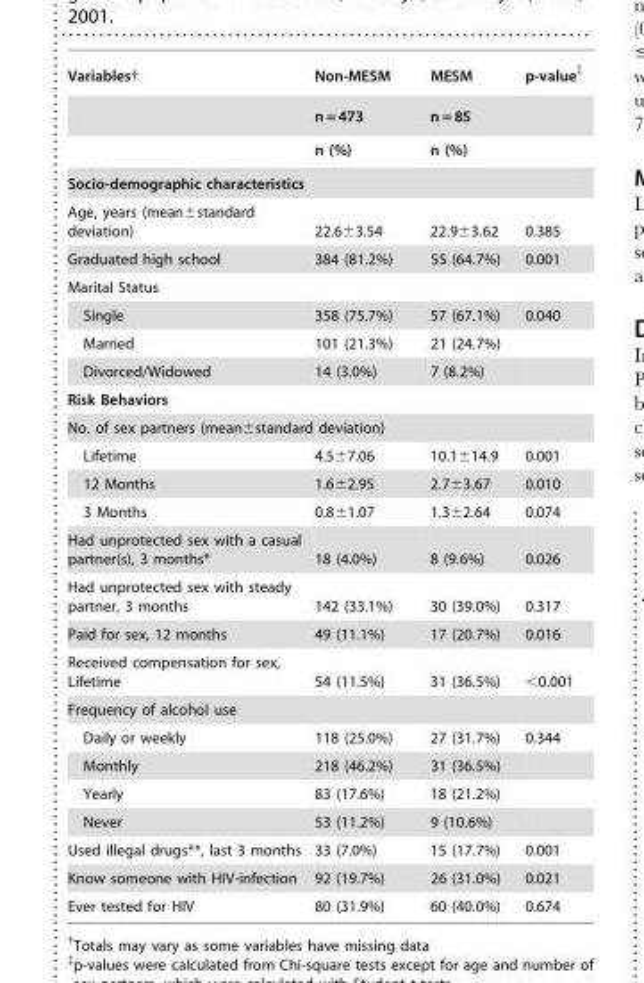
<table><thead><tr><td rowspan="3">Variables†</td><td rowspan="3">Non-MESM n = 473 n (%)</td><td rowspan="3">MESM n = 85 n (%)</td><td rowspan="3">p-value</td></tr><tr></tr><tr></tr></thead><tbody><tr><td colspan="4">Socio-demographic characteristics</td></tr><tr><td>Age, years (mean±standard deviation)</td><td>22.6±3.54</td><td>22.9±3.62</td><td>0.385</td></tr><tr><td>Graduated high school</td><td>384 (81.2%)</td><td>55 (64.7%)</td><td>0.001</td></tr><tr><td colspan="4">Marital Status</td></tr><tr><td>Single</td><td>358 (75.7%)</td><td>57 (67.1%)</td><td>0.040</td></tr><tr><td>Married</td><td>101 (21.3%)</td><td>21 (24.7%)</td><td></td></tr><tr><td>Divorced/Widowed</td><td>14 (3.0%)</td><td>7 (8.2%)</td><td></td></tr><tr><td colspan="4">Risk Behaviors</td></tr><tr><td colspan="4">No. of sex partners (mean±standard deviation)</td></tr><tr><td>Lifetime</td><td>4.5±7.06</td><td>10.1±14.9</td><td>0.001</td></tr><tr><td>12 Months</td><td>1.6±2.95</td><td>2.7±3.67</td><td>0.010</td></tr><tr><td>3 Months</td><td>0.8±1.07</td><td>1.3±2.64</td><td>0.074</td></tr><tr><td>Had unprotected sex with a casual partner(s), 3 months*</td><td>18 (4.0%)</td><td>8 (9.6%)</td><td>0.026</td></tr><tr><td>Had unprotected sex with steady partner, 3 months</td><td>142 (33.1%)</td><td>30 (39.0%)</td><td>0.317</td></tr><tr><td>Paid for sex, 12 months</td><td>49 (11.1%)</td><td>17 (20.7%)</td><td>0.016</td></tr><tr><td>Received compensation for sex, Lifetime</td><td>54 (11.5%)</td><td>31 (36.5%)</td><td>&lt;0.001</td></tr><tr><td colspan="4">Frequency of alcohol use</td></tr><tr><td>Daily or weekly</td><td>118 (25.0%)</td><td>27 (31.7%)</td><td>0.344</td></tr><tr><td>Monthly</td><td>218 (46.2%)</td><td>31 (36.5%)</td><td></td></tr><tr><td>Yearly</td><td>83 (17.6%)</td><td>18 (21.2%)</td><td></td></tr><tr><td>Never</td><td>53 (11.2%)</td><td>9 (10.6%)</td><td></td></tr><tr><td>Used illegal drugs**, last 3 months</td><td>33 (7.0%)</td><td>15 (17.7%)</td><td>0.001</td></tr><tr><td>Know someone with HIV-infection</td><td>92 (19.7%)</td><td>26 (31.0%)</td><td>0.021</td></tr><tr><td>Ever tested for HIV</td><td>80 (31.9%)</td><td>60 (40.0%)</td><td>0.674</td></tr></tbody></table>